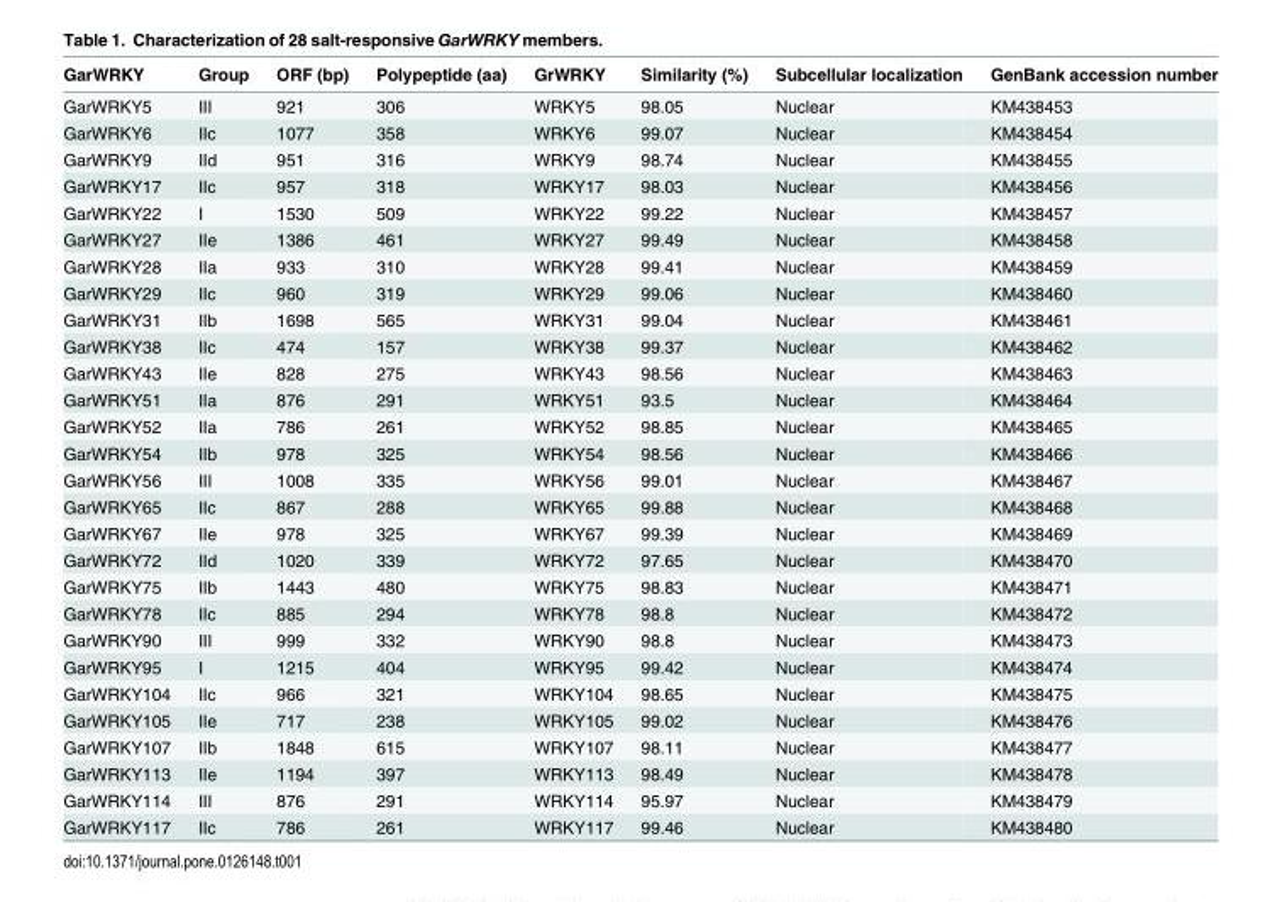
<table><thead><tr><td>GarWRKY</td><td>Group</td><td>ORF (bp)</td><td>Polypeptide (aa)</td><td>GrWRKY</td><td>Similarity (%)</td><td>Subcellular localization</td><td>GenBank accession number</td></tr></thead><tbody><tr><td>GarWRKY5</td><td>III</td><td>921</td><td>306</td><td>WRKY5</td><td>98.05</td><td>Nuclear</td><td>KM438453</td></tr><tr><td>GarWRKY6</td><td>IIc</td><td>1077</td><td>358</td><td>WRKY6</td><td>99.07</td><td>Nuclear</td><td>KM438454</td></tr><tr><td>GarWRKY9</td><td>IId</td><td>951</td><td>316</td><td>WRKY9</td><td>98.74</td><td>Nuclear</td><td>KM438455</td></tr><tr><td>GarWRKY17</td><td>IIc</td><td>957</td><td>318</td><td>WRKY17</td><td>98.03</td><td>Nuclear</td><td>KM438456</td></tr><tr><td>GarWRKY22</td><td>I</td><td>1530</td><td>509</td><td>WRKY22</td><td>99.22</td><td>Nuclear</td><td>KM438457</td></tr><tr><td>GarWRKY27</td><td>IIe</td><td>1386</td><td>461</td><td>WRKY27</td><td>99.49</td><td>Nuclear</td><td>KM438458</td></tr><tr><td>GarWRKY28</td><td>IIa</td><td>933</td><td>310</td><td>WRKY28</td><td>99.41</td><td>Nuclear</td><td>KM438459</td></tr><tr><td>GarWRKY29</td><td>IIc</td><td>960</td><td>319</td><td>WRKY29</td><td>99.06</td><td>Nuclear</td><td>KM438460</td></tr><tr><td>GarWRKY31</td><td>IIb</td><td>1698</td><td>565</td><td>WRKY31</td><td>99.04</td><td>Nuclear</td><td>KM438461</td></tr><tr><td>GarWRKY38</td><td>IIc</td><td>474</td><td>157</td><td>WRKY38</td><td>99.37</td><td>Nuclear</td><td>KM438462</td></tr><tr><td>GarWRKY43</td><td>IIe</td><td>828</td><td>275</td><td>WRKY43</td><td>98.56</td><td>Nuclear</td><td>KM438463</td></tr><tr><td>GarWRKY51</td><td>IIa</td><td>876</td><td>291</td><td>WRKY51</td><td>93.5</td><td>Nuclear</td><td>KM438464</td></tr><tr><td>GarWRKY52</td><td>IIa</td><td>786</td><td>261</td><td>WRKY52</td><td>98.85</td><td>Nuclear</td><td>KM438465</td></tr><tr><td>GarWRKY54</td><td>IIb</td><td>978</td><td>325</td><td>WRKY54</td><td>98.56</td><td>Nuclear</td><td>KM438466</td></tr><tr><td>GarWRKY56</td><td>III</td><td>1008</td><td>335</td><td>WRKY56</td><td>99.01</td><td>Nuclear</td><td>KM438467</td></tr><tr><td>GarWRKY65</td><td>IIc</td><td>867</td><td>288</td><td>WRKY65</td><td>99.88</td><td>Nuclear</td><td>KM438468</td></tr><tr><td>GarWRKY67</td><td>IIe</td><td>978</td><td>325</td><td>WRKY67</td><td>99.39</td><td>Nuclear</td><td>KM438469</td></tr><tr><td>GarWRKY72</td><td>IId</td><td>1020</td><td>339</td><td>WRKY72</td><td>97.65</td><td>Nuclear</td><td>KM438470</td></tr><tr><td>GarWRKY75</td><td>IIb</td><td>1443</td><td>480</td><td>WRKY75</td><td>98.83</td><td>Nuclear</td><td>KM438471</td></tr><tr><td>GarWRKY78</td><td>IIc</td><td>885</td><td>294</td><td>WRKY78</td><td>98.8</td><td>Nuclear</td><td>KM438472</td></tr><tr><td>GarWRKY90</td><td>III</td><td>999</td><td>332</td><td>WRKY90</td><td>98.8</td><td>Nuclear</td><td>KM438473</td></tr><tr><td>GarWRKY95</td><td>I</td><td>1215</td><td>404</td><td>WRKY95</td><td>99.42</td><td>Nuclear</td><td>KM438474</td></tr><tr><td>GarWRKY104</td><td>IIc</td><td>966</td><td>321</td><td>WRKY104</td><td>98.65</td><td>Nuclear</td><td>KM438475</td></tr><tr><td>GarWRKY105</td><td>IIe</td><td>717</td><td>238</td><td>WRKY105</td><td>99.02</td><td>Nuclear</td><td>KM438476</td></tr><tr><td>GarWRKY107</td><td>IIb</td><td>1848</td><td>615</td><td>WRKY107</td><td>98.11</td><td>Nuclear</td><td>KM438477</td></tr><tr><td>GarWRKY113</td><td>IIe</td><td>1194</td><td>397</td><td>WRKY113</td><td>98.49</td><td>Nuclear</td><td>KM438478</td></tr><tr><td>GarWRKY114</td><td>III</td><td>876</td><td>291</td><td>WRKY114</td><td>95.97</td><td>Nuclear</td><td>KM438479</td></tr><tr><td>GarWRKY117</td><td>IIc</td><td>786</td><td>261</td><td>WRKY117</td><td>99.46</td><td>Nuclear</td><td>KM438480</td></tr></tbody></table>